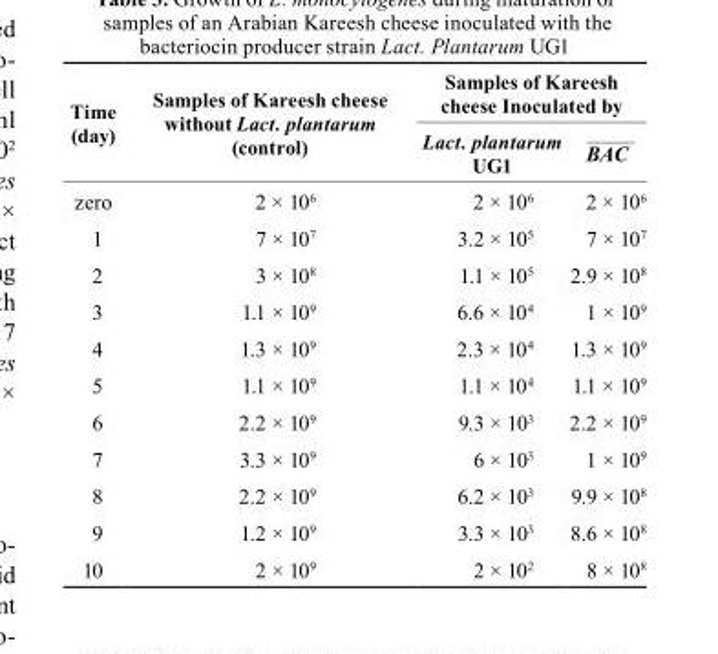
<table><thead><tr><td rowspan="2">time (day)</td><td rowspan="2">Samples of Kareesh cheese without Lact. plantarum (control)</td><td colspan="2">Samples of Kareesh cheese Inoculated by</td></tr><tr><td>Lact. plantarum UG1</td><td>BAC</td></tr></thead><tbody><tr><td>zero</td><td>2 × 10<sup>6</sup></td><td>2 × 10<sup>6</sup></td><td>2 × 10<sup>6</sup></td></tr><tr><td>1</td><td>7 × 10<sup>7</sup></td><td>3.2 × 10<sup>5</sup></td><td>7 × 10<sup>7</sup></td></tr><tr><td>2</td><td>3 × 10<sup>8</sup></td><td>1.1 × 10<sup>5</sup></td><td>2.9 × 10<sup>8</sup></td></tr><tr><td>3</td><td>1.1 × 10<sup>9</sup></td><td>6.6 × 10<sup>4</sup></td><td>1 × 10<sup>9</sup></td></tr><tr><td>4</td><td>1.3 × 10<sup>9</sup></td><td>2.3 × 10<sup>4</sup></td><td>1.3 × 10<sup>9</sup></td></tr><tr><td>5</td><td>1.1 × 10<sup>9</sup></td><td>1.1 × 10<sup>4</sup></td><td>1.1 × 10<sup>9</sup></td></tr><tr><td>6</td><td>2.2 × 10<sup>9</sup></td><td>9.3 × 10<sup>3</sup></td><td>2.2 × 10<sup>9</sup></td></tr><tr><td>7</td><td>3.3 × 10<sup>9</sup></td><td>6 × 10<sup>3</sup></td><td>1 × 10<sup>9</sup></td></tr><tr><td>8</td><td>2.2 × 10<sup>9</sup></td><td>6.2 × 10<sup>3</sup></td><td>9.9 × 10<sup>8</sup></td></tr><tr><td>9</td><td>1.2 × 10<sup>9</sup></td><td>3.3 × 10<sup>3</sup></td><td>8.6 × 10<sup>8</sup></td></tr><tr><td>10</td><td>2 × 10<sup>9</sup></td><td>2 × 10<sup>2</sup></td><td>8 × 10<sup>8</sup></td></tr></tbody></table>